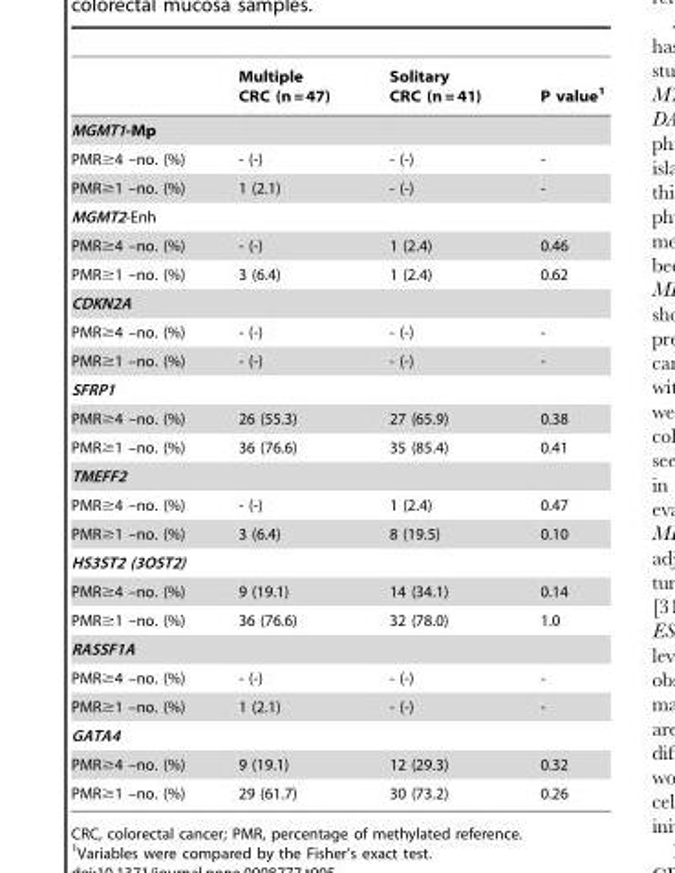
<table><thead><tr><td></td><td>Multiple CRC (n = 47)</td><td>Solitary CRC (n = 41)</td><td>P value<sup>1</sup></td></tr></thead><tbody><tr><td colspan="4">MGMT1-Mp</td></tr><tr><td>PMR≥4 –no. (%)</td><td>- (-)</td><td>- (-)</td><td>-</td></tr><tr><td>PMR≥1 –no. (%)</td><td>1 (2.1)</td><td>- (-)</td><td>-</td></tr><tr><td colspan="4">MGMT2-Enh</td></tr><tr><td>PMR≥4 –no. (%)</td><td>- (-)</td><td>1 (2.4)</td><td>0.46</td></tr><tr><td>PMR≥1 –no. (%)</td><td>3 (6.4)</td><td>1 (2.4)</td><td>0.62</td></tr><tr><td colspan="4">CDKN2A</td></tr><tr><td>PMR≥4 –no. (%)</td><td>- (-)</td><td>- (-)</td><td>-</td></tr><tr><td>PMR≥1 –no. (%)</td><td>- (-)</td><td>- (-)</td><td>-</td></tr><tr><td colspan="4">SFRP1</td></tr><tr><td>PMR≥4 –no. (%)</td><td>26 (55.3)</td><td>27 (65.9)</td><td>0.38</td></tr><tr><td>PMR≥1 –no. (%)</td><td>36 (76.6)</td><td>35 (85.4)</td><td>0.41</td></tr><tr><td colspan="4">TMEFF2</td></tr><tr><td>PMR≥4 –no. (%)</td><td>- (-)</td><td>1 (2.4)</td><td>0.47</td></tr><tr><td>PMR≥1 –no. (%)</td><td>3 (6.4)</td><td>8 (19.5)</td><td>0.10</td></tr><tr><td colspan="4">HS3ST2 (3OST2)</td></tr><tr><td>PMR≥4 –no. (%)</td><td>9 (19.1)</td><td>14 (34.1)</td><td>0.14</td></tr><tr><td>PMR≥1 –no. (%)</td><td>36 (76.6)</td><td>32 (78.0)</td><td>1.0</td></tr><tr><td colspan="4">RASSF1A</td></tr><tr><td>PMR≥4 –no. (%)</td><td>- (-)</td><td>- (-)</td><td>-</td></tr><tr><td>PMR≥1 –no. (%)</td><td>1 (2.1)</td><td>- (-)</td><td>-</td></tr><tr><td colspan="4">GATA4</td></tr><tr><td>PMR≥4 –no. (%)</td><td>9 (19.1)</td><td>12 (29.3)</td><td>0.32</td></tr><tr><td>PMR≥1 –no. (%)</td><td>29 (61.7)</td><td>30 (73.2)</td><td>0.26</td></tr></tbody></table>